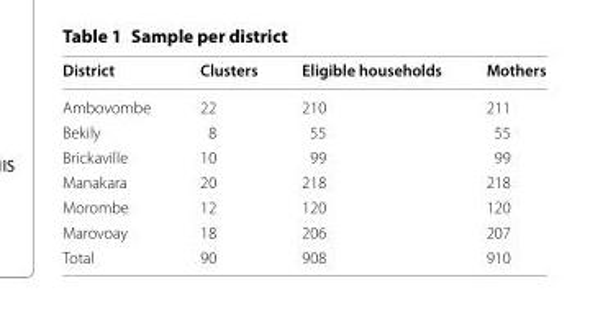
<table><thead><tr><td>District</td><td>Clusters</td><td>Eligible households</td><td>Mothers</td></tr></thead><tbody><tr><td>Ambovombe</td><td>22</td><td>210</td><td>211</td></tr><tr><td>Bekily</td><td>8</td><td>55</td><td>55</td></tr><tr><td>Brickaville</td><td>10</td><td>99</td><td>99</td></tr><tr><td>Manakara</td><td>20</td><td>218</td><td>218</td></tr><tr><td>Morombe</td><td>12</td><td>120</td><td>120</td></tr><tr><td>Marovoay</td><td>18</td><td>206</td><td>207</td></tr><tr><td>Total</td><td>90</td><td>908</td><td>910</td></tr></tbody></table>